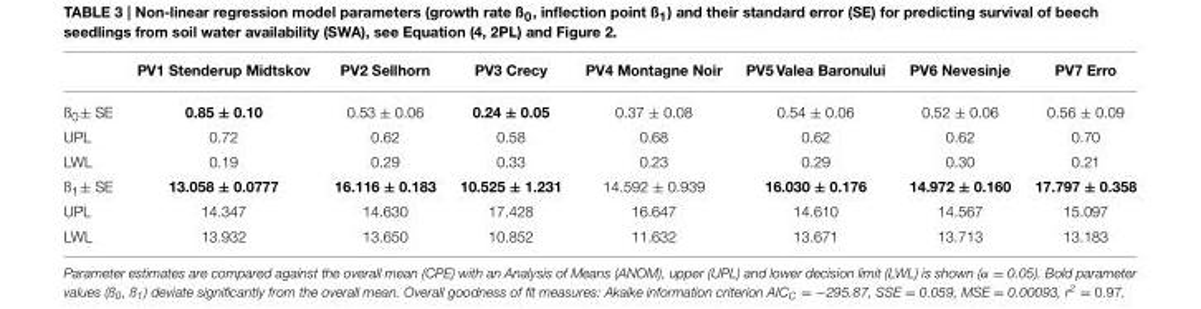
<table><thead><tr><td></td><td>PV1 Stenderup Midtskov</td><td>PV2 Sellhorn</td><td>PV3 Crecy</td><td>PV4 Montagne Noir</td><td>PV5 Valea Baronului</td><td>PV6 Nevesinje</td><td>PV7 Erro</td></tr></thead><tbody><tr><td>ß<sub>0</sub>± SE</td><td>0.85 ± 0.10</td><td>0.53 ± 0.06</td><td>0.24 ± 0.05</td><td>0.37 ± 0.08</td><td>0.54 ± 0.06</td><td>0.52 ± 0.06</td><td>0.56 ± 0.09</td></tr><tr><td>UPL</td><td>0.72</td><td>0.62</td><td>0.58</td><td>0.68</td><td>0.62</td><td>0.62</td><td>0.70</td></tr><tr><td>LWL</td><td>0.19</td><td>0.29</td><td>0.33</td><td>0.23</td><td>0.29</td><td>0.30</td><td>0.21</td></tr><tr><td>ß<sub>1</sub>± SE</td><td>13.058 ± 0.0777</td><td>16.116 ± 0.183</td><td>10.525 ± 1.231</td><td>14.592 ± 0.939</td><td>16.030 ± 0.176</td><td>14.972 ± 0.160</td><td>17.797 ± 0.358</td></tr><tr><td>UPL</td><td>14.347</td><td>14.630</td><td>17.428</td><td>16.647</td><td>14.610</td><td>14.567</td><td>15.097</td></tr><tr><td>LWL</td><td>13.932</td><td>13.650</td><td>10.852</td><td>11.632</td><td>13.671</td><td>13.713</td><td>13.183</td></tr></tbody></table>